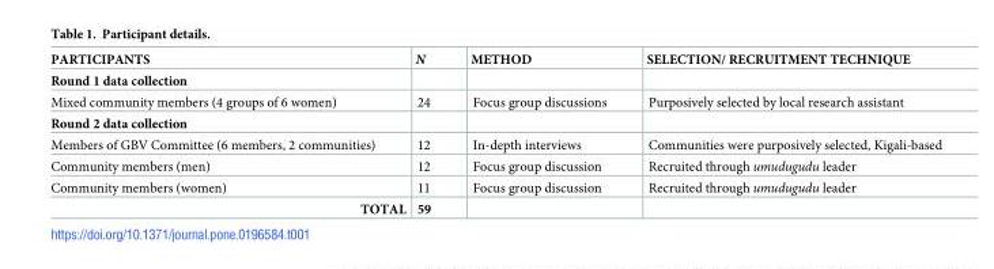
<table><thead><tr><td>PARTICIPANTS</td><td>N</td><td>METHOD</td><td>SELECTION/ RECRUITMENT TECHNIQUE</td></tr></thead><tbody><tr><td colspan="4">Round 1 data collection</td></tr><tr><td>Mixed community members (4 groups of 6 women)</td><td>24</td><td>Focus group discussions</td><td>Purposively selected by local research assistant</td></tr><tr><td colspan="4">Round 2 data collection</td></tr><tr><td>Members of GBV Committee (6 members, 2 communities)</td><td>12</td><td>In-depth interviews</td><td>Communities were purposively selected, Kigali-based</td></tr><tr><td>Community members (men)</td><td>12</td><td>Focus group discussion</td><td>Recruited through umudugudu leader</td></tr><tr><td>Community members (women)</td><td>11</td><td>Focus group discussion</td><td>Recruited through umudugudu leader</td></tr><tr><td>TOTAL</td><td>59</td><td></td><td></td></tr></tbody></table>